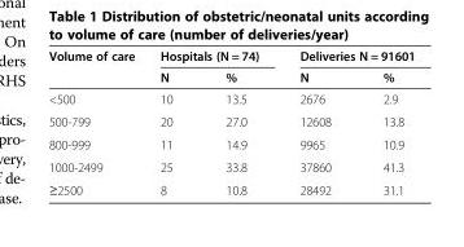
<table><thead><tr><td rowspan="2">Volume of care</td><td colspan="2">Hospitals (N = 74)</td><td colspan="2">Deliveries N = 91601</td></tr><tr><td>N</td><td>%</td><td>N</td><td>%</td></tr></thead><tbody><tr><td>&lt;500</td><td>10</td><td>13.5</td><td>2676</td><td>2.9</td></tr><tr><td>500-799</td><td>20</td><td>27.0</td><td>12608</td><td>13.8</td></tr><tr><td>800-999</td><td>11</td><td>14.9</td><td>9965</td><td>10.9</td></tr><tr><td>1000-2499</td><td>25</td><td>33.8</td><td>37860</td><td>41.3</td></tr><tr><td>≥2500</td><td>8</td><td>10.8</td><td>28492</td><td>31.1</td></tr></tbody></table>